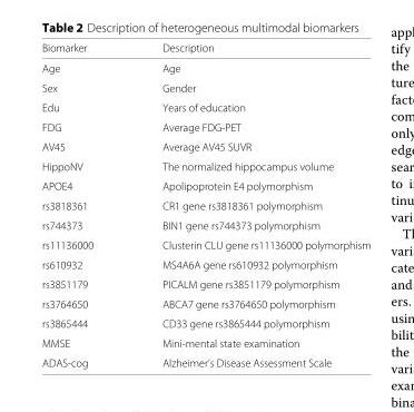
<table><thead><tr><td>Biomarker</td><td>Description</td></tr></thead><tbody><tr><td>Age</td><td>Age</td></tr><tr><td>Sex</td><td>Gender</td></tr><tr><td>Edu</td><td>Years of education</td></tr><tr><td>FDG</td><td>Average FDG-PET</td></tr><tr><td>AV45</td><td>Average AV45 SUVR</td></tr><tr><td>HippoNV</td><td>The normalized hippocampus volume</td></tr><tr><td>APOE4</td><td>Apolipoprotein E4 polymorphism</td></tr><tr><td>rs3818361</td><td>CR1 gene rs3818361 polymorphism</td></tr><tr><td>rs744373</td><td>BIN1 gene rs744373 polymorphism</td></tr><tr><td>rs11136000</td><td>Clusterin CLU gene rs11136000 polymorphism</td></tr><tr><td>rs610932</td><td>MS4A6A gene rs610932 polymorphism</td></tr><tr><td>rs3851179</td><td>PICALM gene rs3851179 polymorphism</td></tr><tr><td>rs3764650</td><td>ABCA7 gene rs3764650 polymorphism</td></tr><tr><td>rs3865444</td><td>CD33 gene rs3865444 polymorphism</td></tr><tr><td>MMSE</td><td>Mini-mental state examination</td></tr><tr><td>ADAS-cog</td><td>Alzheimer’s Disease Assessment Scale</td></tr></tbody></table>